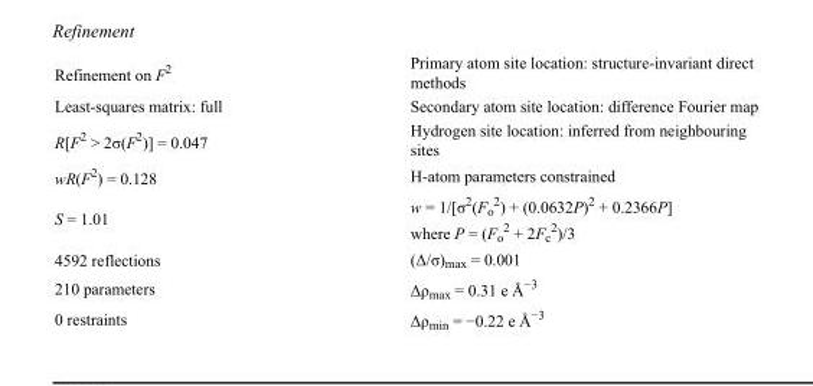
<table><tbody><tr><td>Refinement on F<sup>2</sup></td><td>Primary atom site location: structure-invariant direct methods</td></tr><tr><td>Least-squares matrix: full</td><td>Secondary atom site location: difference Fourier map</td></tr><tr><td>R[F<sup>2</sup> &gt; 2σ(F<sup>2</sup>)] = 0.047</td><td>Hydrogen site location: inferred from neighbouring sites</td></tr><tr><td>wR(F<sup>2</sup>) = 0.128</td><td>H-atom parameters constrained</td></tr><tr><td>S = 1.01</td><td>w = 1/[σ<sup>2</sup>(F<sub>o</sub> <sup>2</sup>) + (0.0632P)<sup>2</sup> + 0.2366P] where P = (F<sub>o</sub> <sup>2</sup> + 2F<sub>c</sub> <sup>2</sup>)/3</td></tr><tr><td>4592 reflections</td><td>(Δ/σ)<sub>max</sub> = 0.001</td></tr><tr><td>210 parameters</td><td>Δρ<sub>max</sub> = 0.31 e Å<sup>−3</sup></td></tr><tr><td>0 restraints</td><td>Δρ<sub>min</sub> = −0.22 e Å<sup>−3</sup></td></tr></tbody></table>